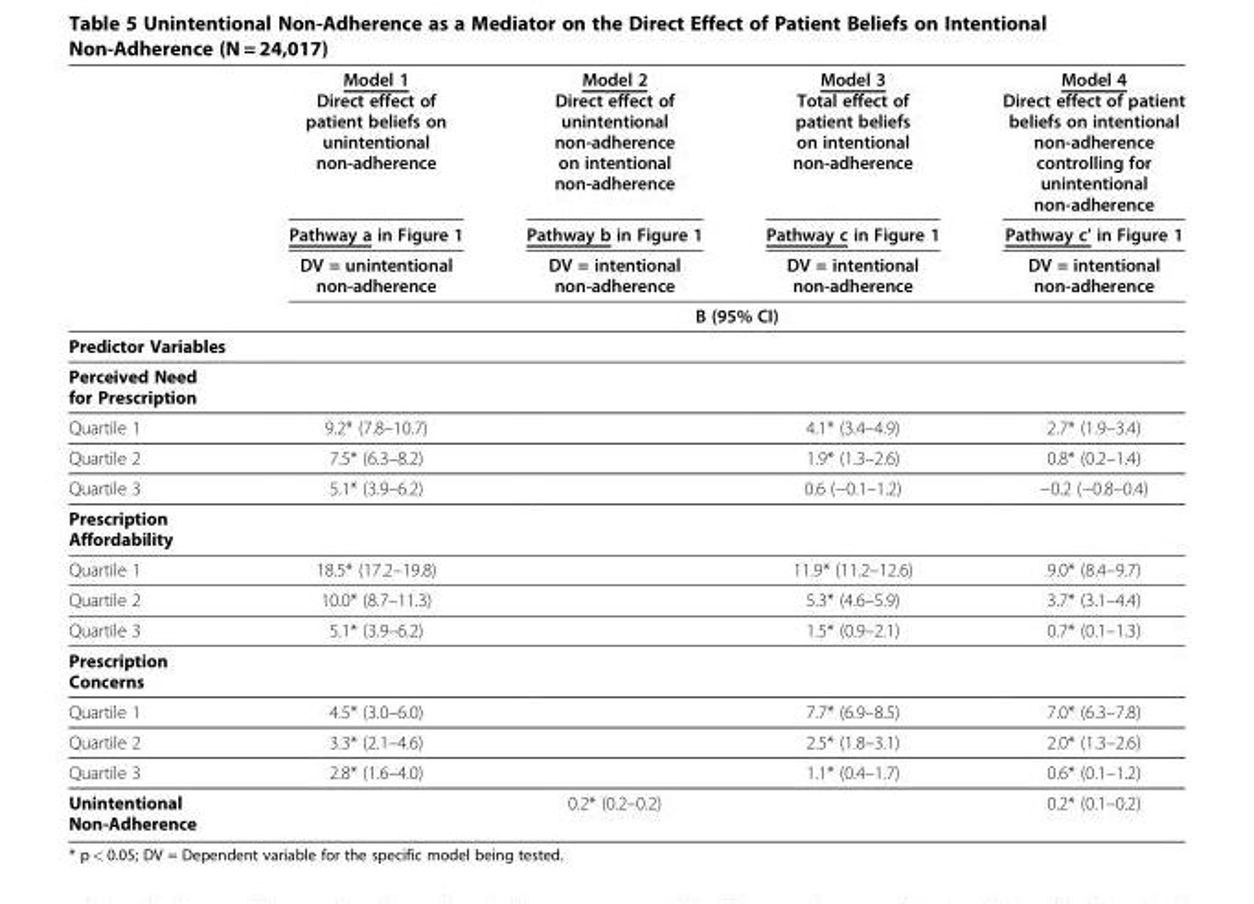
<table><thead><tr><td rowspan="4"></td><td rowspan="3">Model 1 Direct effect of patient beliefs on unintentional non-adherence Pathway a in Figure 1 DV = unintentional non-adherence</td><td rowspan="3">Model 2 Direct effect of unintentional non-adherence on intentional non-adherence Pathway b in Figure 1 DV = intentional non-adherence</td><td rowspan="3">Model 3 Total effect of patient beliefs on intentional non-adherence Pathway c in Figure 1 DV = intentional non-adherence</td><td rowspan="3">Model 4 Direct effect of patient beliefs on intentional non-adherence controlling for unintentional non-adherence Pathway c’ in Figure 1 DV = intentional non-adherence</td></tr><tr></tr><tr></tr><tr><td colspan="4">B (95% CI)</td></tr></thead><tbody><tr><td colspan="5">Predictor Variables</td></tr><tr><td colspan="5">Perceived Need for Prescription</td></tr><tr><td>Quartile 1</td><td>9.2* (7.8–10.7)</td><td></td><td>4.1* (3.4–4.9)</td><td>2.7* (1.9–3.4)</td></tr><tr><td>Quartile 2</td><td>7.5* (6.3–8.2)</td><td></td><td>1.9* (1.3–2.6)</td><td>0.8* (0.2–1.4)</td></tr><tr><td>Quartile 3</td><td>5.1* (3.9–6.2)</td><td></td><td>0.6 (−0.1–1.2)</td><td>−0.2 (−0.8–0.4)</td></tr><tr><td colspan="5">Prescription Affordability</td></tr><tr><td>Quartile 1</td><td>18.5* (17.2–19.8)</td><td></td><td>11.9* (11.2–12.6)</td><td>9.0* (8.4–9.7)</td></tr><tr><td>Quartile 2</td><td>10.0* (8.7–11.3)</td><td></td><td>5.3* (4.6–5.9)</td><td>3.7* (3.1–4.4)</td></tr><tr><td>Quartile 3</td><td>5.1* (3.9–6.2)</td><td></td><td>1.5* (0.9–2.1)</td><td>0.7* (0.1–1.3)</td></tr><tr><td colspan="5">Prescription Concerns</td></tr><tr><td>Quartile 1</td><td>4.5* (3.0–6.0)</td><td></td><td>7.7* (6.9–8.5)</td><td>7.0* (6.3–7.8)</td></tr><tr><td>Quartile 2</td><td>3.3* (2.1–4.6)</td><td></td><td>2.5* (1.8–3.1)</td><td>2.0* (1.3–2.6)</td></tr><tr><td>Quartile 3</td><td>2.8* (1.6–4.0)</td><td></td><td>1.1* (0.4–1.7)</td><td>0.6* (0.1–1.2)</td></tr><tr><td>Unintentional Non-Adherence</td><td></td><td>0.2* (0.2–0.2)</td><td></td><td>0.2* (0.1–0.2)</td></tr></tbody></table>